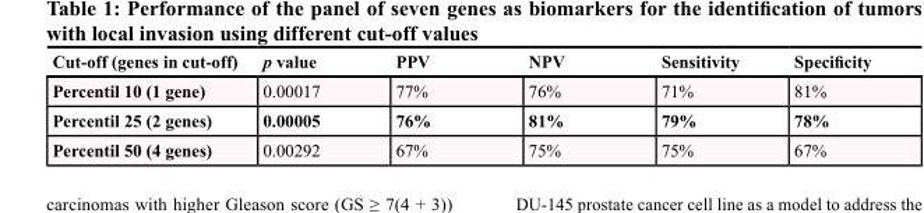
<table><thead><tr><td>Cut-off (genes in cut-off)</td><td>p value</td><td>PPV</td><td>NPV</td><td>Sensitivity</td><td>Specificity</td></tr></thead><tbody><tr><td>Percentil 10 (1 gene)</td><td>0.00017</td><td>77%</td><td>76%</td><td>71%</td><td>81%</td></tr><tr><td>Percentil 25 (2 genes)</td><td>0.00005</td><td>76%</td><td>81%</td><td>79%</td><td>78%</td></tr><tr><td>Percentil 50 (4 genes)</td><td>0.00292</td><td>67%</td><td>75%</td><td>75%</td><td>67%</td></tr></tbody></table>